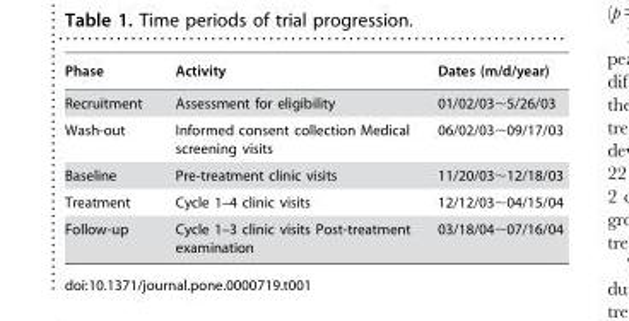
<table><thead><tr><td>Phase</td><td>Activity</td><td>Dates (m/d/year)</td></tr></thead><tbody><tr><td>Recruitment</td><td>Assessment for eligibility</td><td>01/02/03∼5/26/03</td></tr><tr><td>Wash-out</td><td>Informed consent collection Medical screening visits</td><td>06/02/03∼09/17/03</td></tr><tr><td>Baseline</td><td>Pre-treatment clinic visits</td><td>11/20/03∼12/18/03</td></tr><tr><td>Treatment</td><td>Cycle 1–4 clinic visits</td><td>12/12/03∼04/15/04</td></tr><tr><td>Follow-up</td><td>Cycle 1–3 clinic visits Post-treatment examination</td><td>03/18/04∼07/16/04</td></tr></tbody></table>